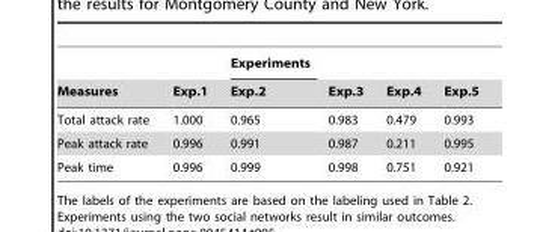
<table><thead><tr><td rowspan="2">Measures</td><td rowspan="2">Exp.1</td><td rowspan="2">Experiments Exp.2</td><td rowspan="2">Exp.3</td><td rowspan="2">Exp.4</td><td rowspan="2">Exp.5</td></tr><tr></tr></thead><tbody><tr><td>Total attack rate</td><td>1.000</td><td>0.965</td><td>0.983</td><td>0.479</td><td>0.993</td></tr><tr><td>Peak attack rate</td><td>0.996</td><td>0.991</td><td>0.987</td><td>0.211</td><td>0.995</td></tr><tr><td>Peak time</td><td>0.996</td><td>0.999</td><td>0.998</td><td>0.751</td><td>0.921</td></tr></tbody></table>